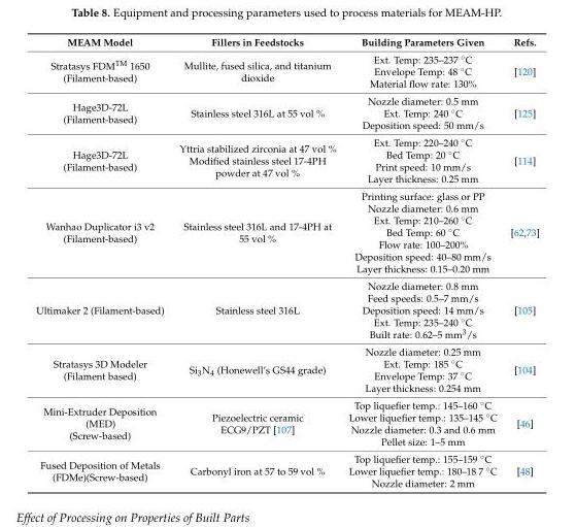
<table><thead><tr><td>MEAM Model</td><td>Fillers in Feedstocks</td><td>Building Parameters Given</td><td>Refs.</td></tr></thead><tbody><tr><td>Stratasys FDM<sup>TM</sup> 1650 (Filament-based)</td><td>Mullite, fused silica, and titanium dioxide</td><td>Ext. Temp: 235–237 ◦C Envelope Temp: 48 ◦C Material flow rate: 130%</td><td>[120]</td></tr><tr><td>Hage3D-72L (Filament-based)</td><td>Stainless steel 316L at 55 vol %</td><td>Nozzle diameter: 0.5 mm Ext. Temp: 240 ◦C Deposition speed: 50 mm/s</td><td>[125]</td></tr><tr><td>Hage3D-72L (Filament-based)</td><td>Yttria stabilized zirconia at 47 vol % Modified stainless steel 17-4PH powder at 47 vol %</td><td>Ext. Temp: 220–240 ◦C Bed Temp: 20 ◦C Print speed: 10 mm/s Layer thickness: 0.25 mm</td><td>[114]</td></tr><tr><td>Wanhao Duplicator i3 v2 (Filament-based)</td><td>Stainless steel 316L and 17-4PH at 55 vol %</td><td>Printing surface: glass or PP Nozzle diameter: 0.6 mm Ext. Temp: 210–260 ◦C Bed Temp: 60 ◦C Flow rate: 100–200% Deposition speed: 40–80 mm/s Layer thickness: 0.15–0.20 mm</td><td>[62,73]</td></tr><tr><td>Ultimaker 2 (Filament-based)</td><td>Stainless steel 316L</td><td>Nozzle diameter: 0.8 mm Feed speeds: 0.5–7 mm/s Deposition speed: 14 mm/s Ext. Temp: 235–240 ◦C Built rate: 0.62–5 mm3/s</td><td>[105]</td></tr><tr><td>Stratasys 3D Modeler (Filament based)</td><td>Si<sub>3</sub>N<sub>4</sub> (Honewell’s GS44 grade)</td><td>Nozzle diameter: 0.25 mm Ext. Temp: 185 ◦C Envelope Temp: 37 ◦C Layer thickness: 0.254 mm</td><td>[104]</td></tr><tr><td>Mini-Extruder Deposition (MED) (Screw-based)</td><td>Piezoelectric ceramic ECG9/PZT [107]</td><td>Top liquefier temp.: 145–160 ◦C Lower liquefier temp.: 135–145 ◦C Nozzle diameter: 0.3 and 0.6 mm Pellet size: 1–5 mm</td><td>[46]</td></tr><tr><td>Fused Deposition of Metals (FDMe)(Screw-based)</td><td>Carbonyl iron at 57 to 59 vol %</td><td>Top liquefier temp.: 155–159 ◦C Lower liquefier temp.: 180–18 7 ◦C Nozzle diameter: 2 mm</td><td>[48]</td></tr></tbody></table>